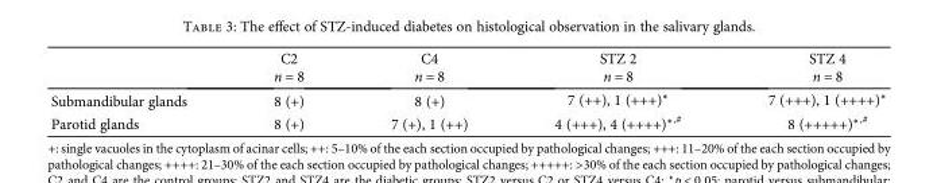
<table><thead><tr><td></td><td>C2 n = 8</td><td>C4 n = 8</td><td>STZ 2 n = 8</td><td>STZ 4 n = 8</td></tr></thead><tbody><tr><td>Submandibular glands</td><td>8 (+)</td><td>8 (+)</td><td>7 (++), 1 (+++)∗</td><td>7 (+++), 1 (++++)∗</td></tr><tr><td>Parotid glands</td><td>8 (+)</td><td>7 (+), 1 (++)</td><td>4 (+++), 4 (++++)<sup>∗,#</sup></td><td>8 (+++++)<sup>∗,#</sup></td></tr></tbody></table>